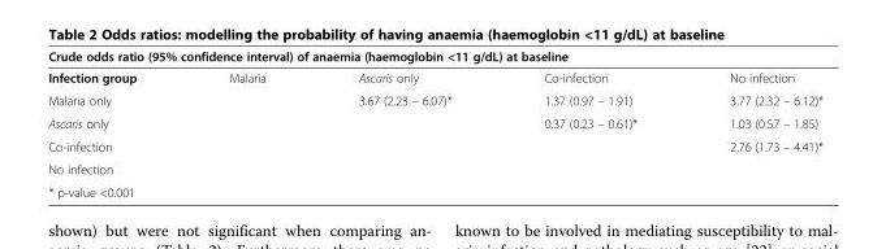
<table><thead><tr><td colspan="5">Crude odds ratio (95% confidence interval) of anaemia (haemoglobin &lt;11 g/dL) at baseline</td></tr><tr><td>Infection group</td><td>Malaria</td><td>Ascaris only</td><td>Co-infection</td><td>No infection</td></tr></thead><tbody><tr><td>Malaria only</td><td></td><td>3.67 (2.23 – 6.07)*</td><td>1.37 (0.97 – 1.91)</td><td>3.77 (2.32 – 6.12)*</td></tr><tr><td>Ascaris only</td><td></td><td></td><td>0.37 (0.23 – 0.61)*</td><td>1.03 (0.57 – 1.85)</td></tr><tr><td>Co-infection</td><td></td><td></td><td></td><td>2.76 (1.73 – 4.41)*</td></tr><tr><td colspan="5">No infection</td></tr><tr><td>* p-value &lt;0.001</td><td></td><td></td><td></td><td></td></tr></tbody></table>